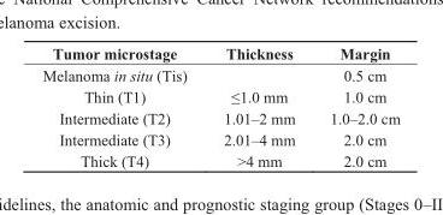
<table><thead><tr><td>Tumor microstage</td><td>Thickness</td><td>Margin</td></tr></thead><tbody><tr><td>Melanoma in situ (Tis)</td><td></td><td>0.5 cm</td></tr><tr><td>Thin (T1)</td><td>≤1.0 mm</td><td>1.0 cm</td></tr><tr><td>Intermediate (T2)</td><td>1.01–2 mm</td><td>1.0–2.0 cm</td></tr><tr><td>Intermediate (T3)</td><td>2.01–4 mm</td><td>2.0 cm</td></tr><tr><td>Thick (T4)</td><td>&gt;4 mm</td><td>2.0 cm</td></tr></tbody></table>